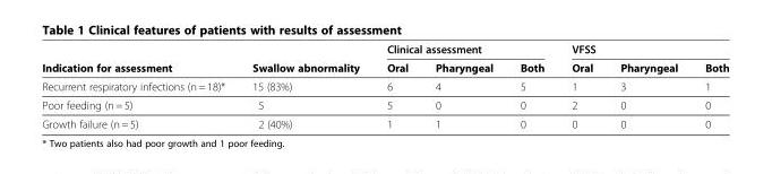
<table><thead><tr><td rowspan="2">Indication for assessment</td><td rowspan="2">Swallow abnormality</td><td colspan="3">Clinical assessment</td><td colspan="3">VFSS</td></tr><tr><td>Oral</td><td>Pharyngeal</td><td>Both</td><td>Oral</td><td>Pharyngeal</td><td>Both</td></tr></thead><tbody><tr><td>Recurrent respiratory infections (n = 18)*</td><td>15 (83%)</td><td>6</td><td>4</td><td>5</td><td>1</td><td>3</td><td>1</td></tr><tr><td>Poor feeding (n = 5)</td><td>5</td><td>5</td><td>0</td><td>0</td><td>2</td><td>0</td><td>0</td></tr><tr><td>Growth failure (n = 5)</td><td>2 (40%)</td><td>1</td><td>1</td><td>0</td><td>0</td><td>0</td><td>0</td></tr></tbody></table>